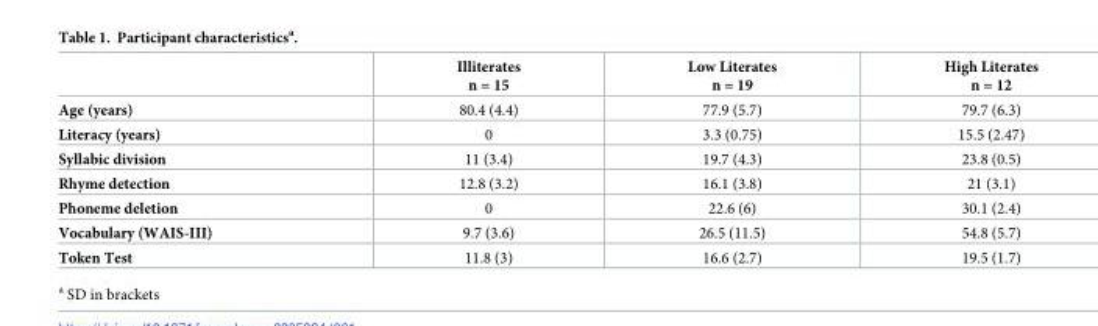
<table><thead><tr><td></td><td>Illiterates n = 15</td><td>Low Literates n = 19</td><td>High Literates n = 12</td></tr></thead><tbody><tr><td>Age (years)</td><td>80.4 (4.4)</td><td>77.9 (5.7)</td><td>79.7 (6.3)</td></tr><tr><td>Literacy (years)</td><td>0</td><td>3.3 (0.75)</td><td>15.5 (2.47)</td></tr><tr><td>Syllabic division</td><td>11 (3.4)</td><td>19.7 (4.3)</td><td>23.8 (0.5)</td></tr><tr><td>Rhyme detection</td><td>12.8 (3.2)</td><td>16.1 (3.8)</td><td>21 (3.1)</td></tr><tr><td>Phoneme deletion</td><td>0</td><td>22.6 (6)</td><td>30.1 (2.4)</td></tr><tr><td>Vocabulary (WAIS-III)</td><td>9.7 (3.6)</td><td>26.5 (11.5)</td><td>54.8 (5.7)</td></tr><tr><td>Token Test</td><td>11.8 (3)</td><td>16.6 (2.7)</td><td>19.5 (1.7)</td></tr></tbody></table>